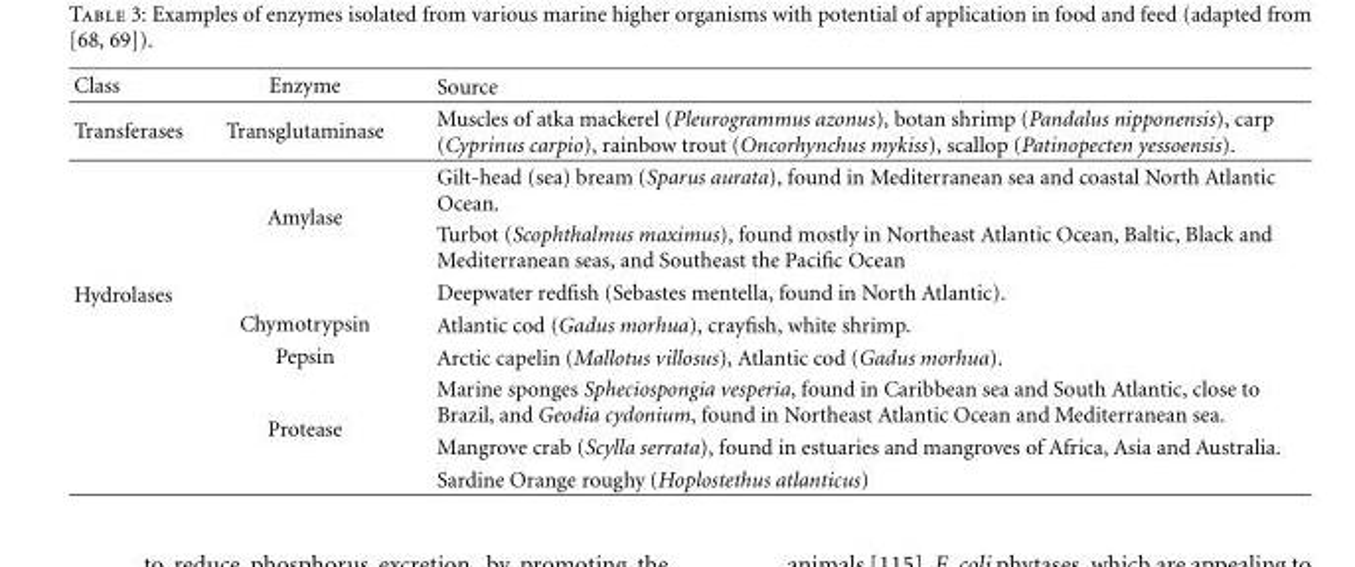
<table><thead><tr><td>Class</td><td>Enzyme</td><td>Source</td></tr></thead><tbody><tr><td>Transferases</td><td>Transglutaminase</td><td>Muscles of atka mackerel (Pleurogrammus azonus), botan shrimp (Pandalus nipponensis), carp (Cyprinus carpio), rainbow trout (Oncorhynchus mykiss), scallop (Patinopecten yessoensis).</td></tr><tr><td rowspan="8">Hydrolases</td><td rowspan="3">Amylase</td><td>Gilt-head (sea) bream (Sparus aurata), found in Mediterranean sea and coastal North Atlantic Ocean.</td></tr><tr><td>Turbot (Scophthalmus maximus), found mostly in Northeast Atlantic Ocean, Baltic, Black and Mediterranean seas, and Southeast the Pacific Ocean</td></tr><tr><td>Deepwater redfish (Sebastes mentella, found in North Atlantic).</td></tr><tr><td>Chymotrypsin</td><td>Atlantic cod (Gadus morhua), crayfish, white shrimp.</td></tr><tr><td>Pepsin</td><td>Arctic capelin (Mallotus villosus), Atlantic cod (Gadus morhua).</td></tr><tr><td rowspan="3">Protease</td><td>Marine sponges Spheciospongia vesperia, found in Caribbean sea and South Atlantic, close to Brazil, and Geodia cydonium, found in Northeast Atlantic Ocean and Mediterranean sea.</td></tr><tr><td>Mangrove crab (Scylla serrata), found in estuaries and mangroves of Africa, Asia and Australia.</td></tr><tr><td>Sardine Orange roughy (Hoplostethus atlanticus)</td></tr></tbody></table>